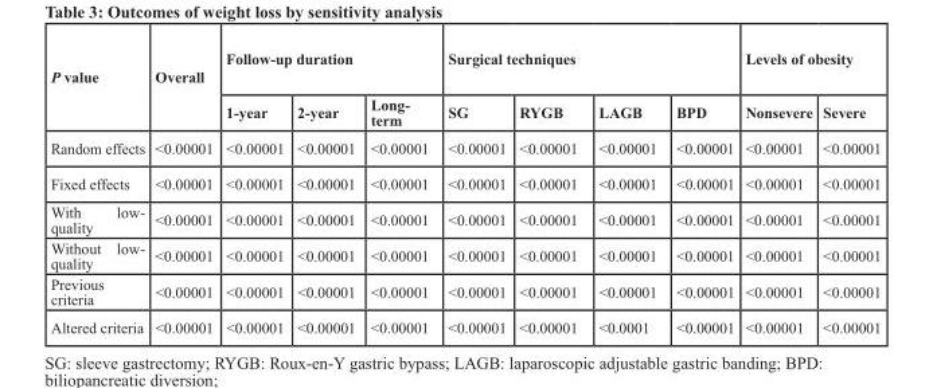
<table><thead><tr><td rowspan="2">P value</td><td rowspan="2">overall</td><td colspan="3">Follow-up duration</td><td colspan="4">surgical techniques</td><td colspan="2">levels of obesity</td></tr><tr><td>1-year</td><td>2-year</td><td>long- term</td><td>sG</td><td>rYGb</td><td>lAGb</td><td>bPd</td><td>nonsevere</td><td>severe</td></tr></thead><tbody><tr><td>Random effects</td><td>&lt;0.00001</td><td>&lt;0.00001</td><td>&lt;0.00001</td><td>&lt;0.00001</td><td>&lt;0.00001</td><td>&lt;0.00001</td><td>&lt;0.00001</td><td>&lt;0.00001</td><td>&lt;0.00001</td><td>&lt;0.00001</td></tr><tr><td>Fixed effects</td><td>&lt;0.00001</td><td>&lt;0.00001</td><td>&lt;0.00001</td><td>&lt;0.00001</td><td>&lt;0.00001</td><td>&lt;0.00001</td><td>&lt;0.00001</td><td>&lt;0.00001</td><td>&lt;0.00001</td><td>&lt;0.00001</td></tr><tr><td>With low- quality</td><td>&lt;0.00001</td><td>&lt;0.00001</td><td>&lt;0.00001</td><td>&lt;0.00001</td><td>&lt;0.00001</td><td>&lt;0.00001</td><td>&lt;0.00001</td><td>&lt;0.00001</td><td>&lt;0.00001</td><td>&lt;0.00001</td></tr><tr><td>Without low- quality</td><td>&lt;0.00001</td><td>&lt;0.00001</td><td>&lt;0.00001</td><td>&lt;0.00001</td><td>&lt;0.00001</td><td>&lt;0.00001</td><td>&lt;0.00001</td><td>&lt;0.00001</td><td>&lt;0.00001</td><td>&lt;0.00001</td></tr><tr><td>Previous criteria</td><td>&lt;0.00001</td><td>&lt;0.00001</td><td>&lt;0.00001</td><td>&lt;0.00001</td><td>&lt;0.00001</td><td>&lt;0.00001</td><td>&lt;0.00001</td><td>&lt;0.00001</td><td>&lt;0.00001</td><td>&lt;0.00001</td></tr><tr><td>Altered criteria</td><td>&lt;0.00001</td><td>&lt;0.00001</td><td>&lt;0.00001</td><td>&lt;0.00001</td><td>&lt;0.00001</td><td>&lt;0.00001</td><td>&lt;0.0001</td><td>&lt;0.00001</td><td>&lt;0.00001</td><td>&lt;0.00001</td></tr></tbody></table>